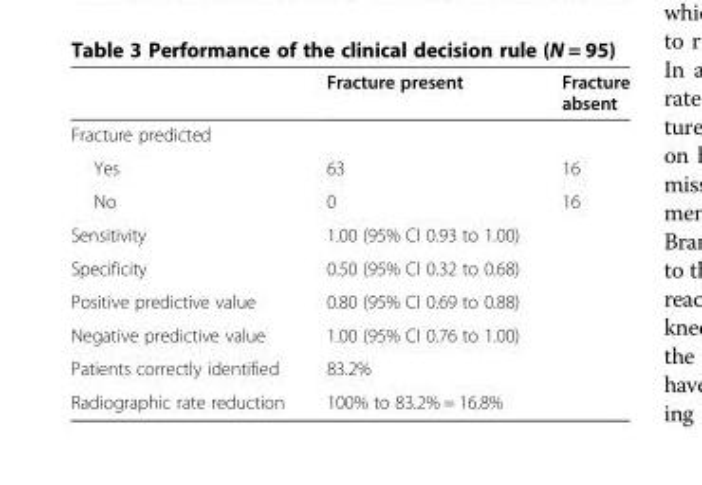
<table><thead><tr><td></td><td>Fracture present</td><td>Fracture absent</td></tr></thead><tbody><tr><td colspan="3">Fracture predicted</td></tr><tr><td>Yes</td><td>63</td><td>16</td></tr><tr><td>No</td><td>0</td><td>16</td></tr><tr><td>Sensitivity</td><td>1.00 (95% CI 0.93 to 1.00)</td><td></td></tr><tr><td>Specificity</td><td>0.50 (95% CI 0.32 to 0.68)</td><td></td></tr><tr><td>Positive predictive value</td><td>0.80 (95% CI 0.69 to 0.88)</td><td></td></tr><tr><td>Negative predictive value</td><td>1.00 (95% CI 0.76 to 1.00)</td><td></td></tr><tr><td>Patients correctly identified</td><td colspan="2">83.2%</td></tr><tr><td>Radiographic rate reduction</td><td colspan="2">100% to 83.2% = 16.8%</td></tr></tbody></table>